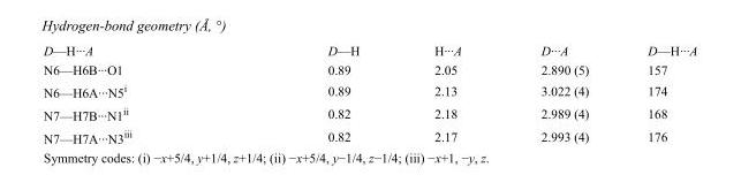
<table><tbody><tr><td>D—H···A</td><td>D—H</td><td>H···A</td><td>D···A</td><td>D—H···A</td></tr><tr><td>N6—H6B···O1</td><td>0.89</td><td>2.05</td><td>2.890 (5)</td><td>157</td></tr><tr><td>N6—H6A···N5<sup>i</sup></td><td>0.89</td><td>2.13</td><td>3.022 (4)</td><td>174</td></tr><tr><td>N7—H7B···N1<sup>ii</sup></td><td>0.82</td><td>2.18</td><td>2.989 (4)</td><td>168</td></tr><tr><td>N7—H7A···N3<sup>iii</sup></td><td>0.82</td><td>2.17</td><td>2.993 (4)</td><td>176</td></tr></tbody></table>